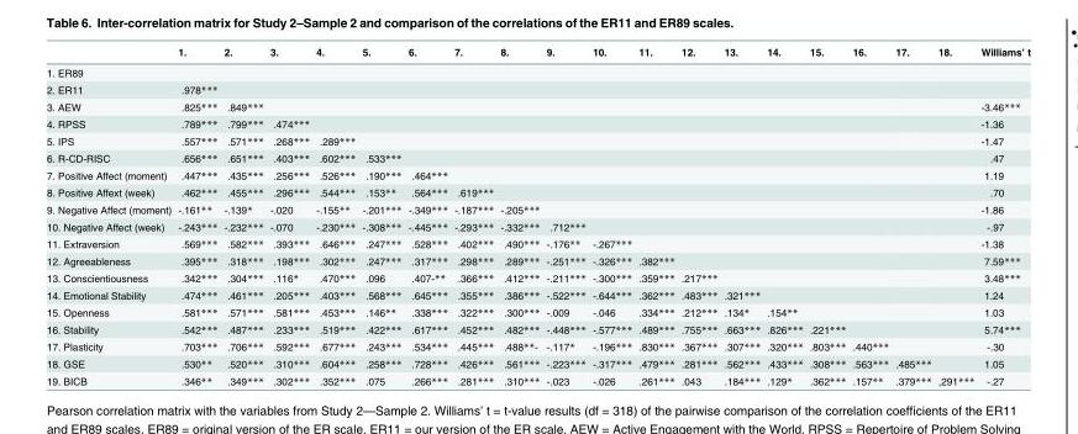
<table><thead><tr><td></td><td>1.</td><td>2.</td><td>3.</td><td>4.</td><td>5.</td><td>6.</td><td>7.</td><td>8.</td><td>9.</td><td>10.</td><td>11.</td><td>12.</td><td>13.</td><td>14.</td><td>15.</td><td>16.</td><td>17.</td><td>18.</td><td>Williams’ t</td></tr></thead><tbody><tr><td colspan="20">1. ER89</td></tr><tr><td>2. ER11</td><td>.978***</td><td></td><td></td><td></td><td></td><td></td><td></td><td></td><td></td><td></td><td></td><td></td><td></td><td></td><td></td><td></td><td></td><td></td><td></td></tr><tr><td>3. AEW</td><td>.825***</td><td>.849***</td><td></td><td></td><td></td><td></td><td></td><td></td><td></td><td></td><td></td><td></td><td></td><td></td><td></td><td></td><td></td><td></td><td>-3.46***</td></tr><tr><td>4. RPSS</td><td>.789***</td><td>.799***</td><td>.474***</td><td></td><td></td><td></td><td></td><td></td><td></td><td></td><td></td><td></td><td></td><td></td><td></td><td></td><td></td><td></td><td>-1.36</td></tr><tr><td>5. IPS</td><td>.557***</td><td>.571***</td><td>.268***</td><td>.289***</td><td></td><td></td><td></td><td></td><td></td><td></td><td></td><td></td><td></td><td></td><td></td><td></td><td></td><td></td><td>-1.47</td></tr><tr><td>6. R-CD-RISC</td><td>.656***</td><td>.651***</td><td>.403***</td><td>.602***</td><td>.533***</td><td></td><td></td><td></td><td></td><td></td><td></td><td></td><td></td><td></td><td></td><td></td><td></td><td></td><td>.47</td></tr><tr><td>7. Positive Affect (moment)</td><td>.447***</td><td>.435***</td><td>.256***</td><td>.526***</td><td>.190***</td><td>.464***</td><td></td><td></td><td></td><td></td><td></td><td></td><td></td><td></td><td></td><td></td><td></td><td></td><td>1.19</td></tr><tr><td>8. Positive Affext (week)</td><td>.462***</td><td>.455***</td><td>.296***</td><td>.544***</td><td>.153**</td><td>.564***</td><td>.619***</td><td></td><td></td><td></td><td></td><td></td><td></td><td></td><td></td><td></td><td></td><td></td><td>.70</td></tr><tr><td>9. Negative Affect (moment)</td><td>-.161**</td><td>-.139*</td><td>-.020</td><td>-.155**</td><td>-.201***</td><td>-.349***</td><td>-.187***</td><td>-.205***</td><td></td><td></td><td></td><td></td><td></td><td></td><td></td><td></td><td></td><td></td><td>-1.86</td></tr><tr><td>10. Negative Affect (week)</td><td>-.243***</td><td>-.232***</td><td>-.070</td><td>-.230***</td><td>-.308***</td><td>-.445***</td><td>-.293***</td><td>-.332***</td><td>.712***</td><td></td><td></td><td></td><td></td><td></td><td></td><td></td><td></td><td></td><td>-.97</td></tr><tr><td>11. Extraversion</td><td>.569***</td><td>.582***</td><td>.393***</td><td>.646***</td><td>.247***</td><td>.528***</td><td>.402***</td><td>.490***</td><td>-.176**</td><td>-.267***</td><td></td><td></td><td></td><td></td><td></td><td></td><td></td><td></td><td>-1.38</td></tr><tr><td>12. Agreeableness</td><td>.395***</td><td>.318***</td><td>.198***</td><td>.302***</td><td>.247***</td><td>.317***</td><td>.298***</td><td>.289***</td><td>-.251***</td><td>-.326***</td><td>.382***</td><td></td><td></td><td></td><td></td><td></td><td></td><td></td><td>7.59***</td></tr><tr><td>13. Conscientiousness</td><td>.342***</td><td>.304***</td><td>.116*</td><td>.470***</td><td>.096</td><td>.407-**</td><td>.366***</td><td>.412***</td><td>-.211***</td><td>-.300***</td><td>.359***</td><td>.217***</td><td></td><td></td><td></td><td></td><td></td><td></td><td>3.48***</td></tr><tr><td>14. Emotional Stability</td><td>.474***</td><td>.461***</td><td>.205***</td><td>.403***</td><td>.568***</td><td>.645***</td><td>.355***</td><td>.386***</td><td>-.522***</td><td>-.644***</td><td>.362***</td><td>.483***</td><td>.321***</td><td></td><td></td><td></td><td></td><td></td><td>1.24</td></tr><tr><td>15. Openness</td><td>.581***</td><td>.571***</td><td>.581***</td><td>.453***</td><td>.146**</td><td>.338***</td><td>.322***</td><td>.300***</td><td>-.009</td><td>-.046</td><td>.334***</td><td>.212***</td><td>.134*</td><td>.154**</td><td></td><td></td><td></td><td></td><td>1.03</td></tr><tr><td>16. Stability</td><td>.542***</td><td>.487***</td><td>.233***</td><td>.519***</td><td>.422***</td><td>.617***</td><td>.452***</td><td>.482***</td><td>-.448***</td><td>-.577***</td><td>.489***</td><td>.755***</td><td>.663***</td><td>.826***</td><td>.221***</td><td></td><td></td><td></td><td>5.74***</td></tr><tr><td>17. Plasticity</td><td>.703***</td><td>.706***</td><td>.592***</td><td>.677***</td><td>.243***</td><td>.534***</td><td>.445***</td><td>.488**-</td><td>-.117*</td><td>-.196***</td><td>.830***</td><td>.367***</td><td>.307***</td><td>.320***</td><td>.803***</td><td>.440***</td><td></td><td></td><td>-.30</td></tr><tr><td>18. GSE</td><td>.530**</td><td>.520***</td><td>.310***</td><td>.604***</td><td>.258***</td><td>.728***</td><td>.426***</td><td>.561***</td><td>-.223***</td><td>-.317***</td><td>.479***</td><td>.281***</td><td>.562***</td><td>.433***</td><td>.308***</td><td>.563***</td><td>.485***</td><td></td><td>1.05</td></tr><tr><td>19. BICB</td><td>.346**</td><td>.349***</td><td>.302***</td><td>.352***</td><td>.075</td><td>.266***</td><td>.281***</td><td>.310***</td><td>-.023</td><td>-.026</td><td>.261***</td><td>.043</td><td>.184***</td><td>.129*</td><td>.362***</td><td>.157**</td><td>.379***</td><td>,291***</td><td>-.27</td></tr></tbody></table>